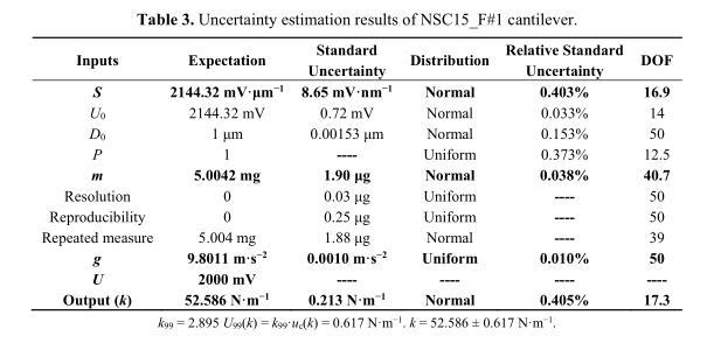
<table><thead><tr><td>Inputs</td><td>Expectation</td><td>Standard Uncertainty</td><td>Distribution</td><td>Relative Standard Uncertainty</td><td>DOF</td></tr></thead><tbody><tr><td>S</td><td>2144.32 mV·μm<sup>−1</sup></td><td>8.65 mV·nm<sup>−1</sup></td><td>Normal</td><td>0.403%</td><td>16.9</td></tr><tr><td>U<sub>0</sub></td><td>2144.32 mV</td><td>0.72 mV</td><td>Normal</td><td>0.033%</td><td>14</td></tr><tr><td>D<sub>0</sub></td><td>1 μm</td><td>0.00153 μm</td><td>Normal</td><td>0.153%</td><td>50</td></tr><tr><td>P</td><td>1</td><td>----</td><td>Uniform</td><td>0.373%</td><td>12.5</td></tr><tr><td>m</td><td>5.0042 mg</td><td>1.90 μg</td><td>Normal</td><td>0.038%</td><td>40.7</td></tr><tr><td>Resolution</td><td>0</td><td>0.03 μg</td><td>Uniform</td><td>----</td><td>50</td></tr><tr><td>Reproducibility</td><td>0</td><td>0.25 μg</td><td>Uniform</td><td>----</td><td>50</td></tr><tr><td>Repeated measure</td><td>5.004 mg</td><td>1.88 μg</td><td>Normal</td><td>----</td><td>39</td></tr><tr><td>g</td><td>9.8011 m·s<sup>−2</sup></td><td>0.0010 m·s<sup>−2</sup></td><td>Uniform</td><td>0.010%</td><td>50</td></tr><tr><td>U</td><td>2000 mV</td><td>----</td><td>----</td><td>----</td><td>----</td></tr><tr><td>Output (k)</td><td>52.586 N·m<sup>−1</sup></td><td>0.213 N·m<sup>−1</sup></td><td>Normal</td><td>0.405%</td><td>17.3</td></tr></tbody></table>